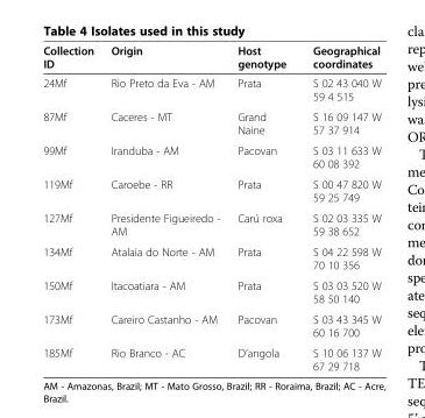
<table><thead><tr><td>Collection ID</td><td>Origin</td><td>Host genotype</td><td>Geographical coordinates</td></tr></thead><tbody><tr><td>24Mf</td><td>Rio Preto da Eva - AM</td><td>Prata</td><td>S 02 43 040 W 59 4 515</td></tr><tr><td>87Mf</td><td>Caceres - MT</td><td>Grand Naine</td><td>S 16 09 147 W 57 37 914</td></tr><tr><td>99Mf</td><td>Iranduba - AM</td><td>Pacovan</td><td>S 03 11 633 W 60 08 392</td></tr><tr><td>119Mf</td><td>Caroebe - RR</td><td>Prata</td><td>S 00 47 820 W 59 25 749</td></tr><tr><td>127Mf</td><td>Presidente Figueiredo - AM</td><td>Carú roxa</td><td>S 02 03 335 W 59 38 652</td></tr><tr><td>134Mf</td><td>Atalaia do Norte - AM</td><td>Prata</td><td>S 04 22 598 W 70 10 356</td></tr><tr><td>150Mf</td><td>Itacoatiara - AM</td><td>Prata</td><td>S 03 03 520 W 58 50 140</td></tr><tr><td>173Mf</td><td>Careiro Castanho - AM</td><td>Pacovan</td><td>S 03 43 345 W 60 16 700</td></tr><tr><td>185Mf</td><td>Rio Branco - AC</td><td>D’angola</td><td>S 10 06 137 W 67 29 718</td></tr></tbody></table>